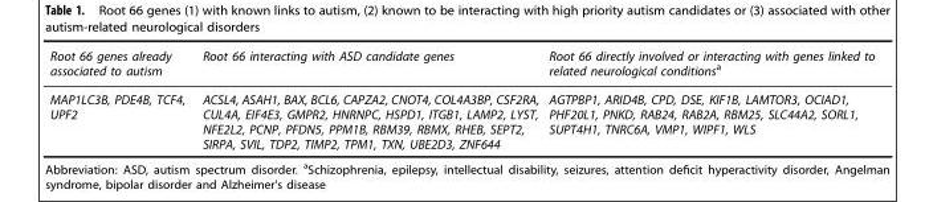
<table><thead><tr><td>Root 66 genes already associated to autism</td><td>Root 66 interacting with ASD candidate genes</td><td>Root 66 directly involved or interacting with genes linked to related neurological conditions<sup>a</sup></td></tr></thead><tbody><tr><td>MAP1LC3B, PDE4B, TCF4, UPF2</td><td>ACSL4, ASAH1, BAX, BCL6, CAPZA2, CNOT4, COL4A3BP, CSF2RA, CUL4A, EIF4E3, GMPR2, HNRNPC, HSPD1, ITGB1, LAMP2, LYST, NFE2L2, PCNP, PFDN5, PPM1B, RBM39, RBMX, RHEB, SEPT2, SIRPA, SVIL, TDP2, TIMP2, TPM1, TXN, UBE2D3, ZNF644</td><td>AGTPBP1, ARID4B, CPD, DSE, KIF1B, LAMTOR3, OCIAD1, PHF20L1, PNKD, RAB24, RAB2A, RBM25, SLC44A2, SORL1, SUPT4H1, TNRC6A, VMP1, WIPF1, WLS</td></tr></tbody></table>